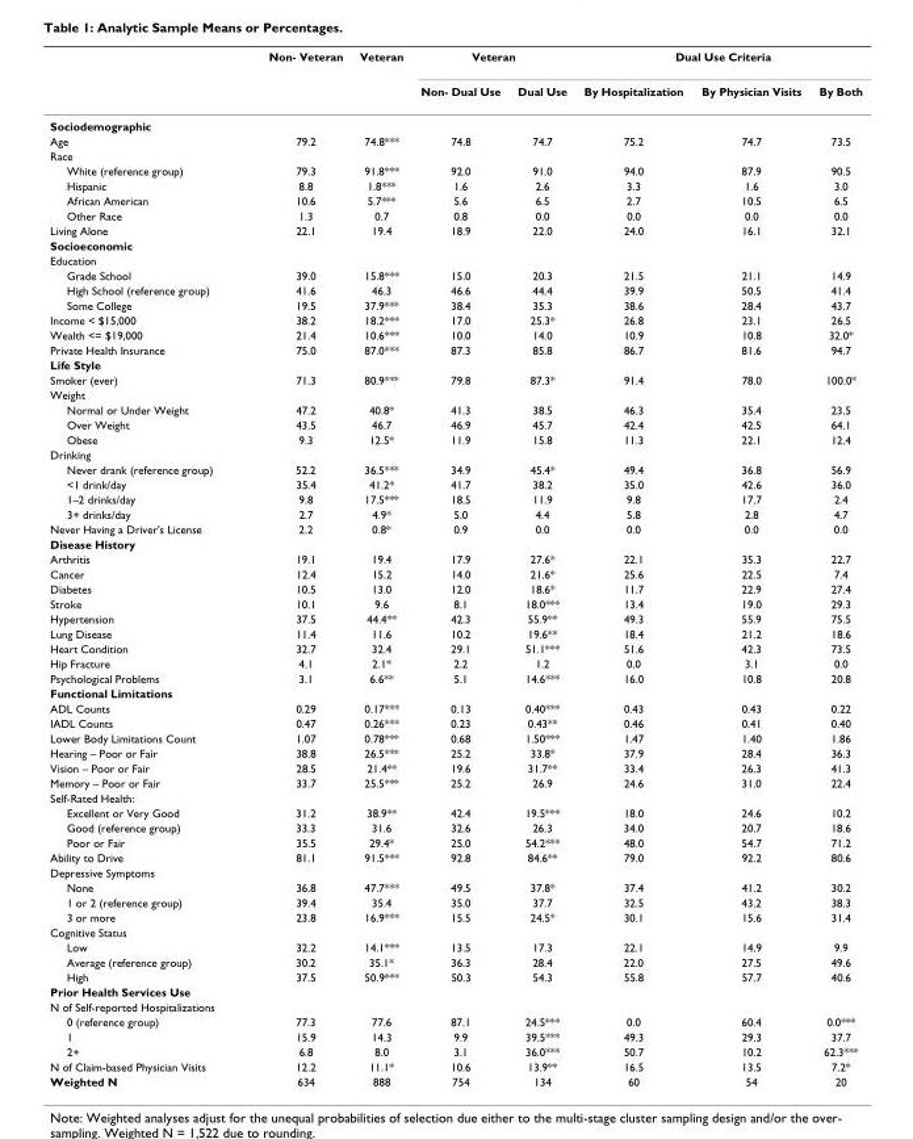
<table><thead><tr><td rowspan="2"></td><td rowspan="2">Non- Veteran</td><td rowspan="2">Veteran</td><td colspan="2">Veteran</td><td colspan="3">Dual Use Criteria</td></tr><tr><td>Non- Dual Use</td><td>Dual Use</td><td>By Hospitalization</td><td>By Physician Visits</td><td>By Both</td></tr></thead><tbody><tr><td colspan="8">Sociodemographic</td></tr><tr><td>Age</td><td>79.2</td><td>74.8***</td><td>74.8</td><td>74.7</td><td>75.2</td><td>74.7</td><td>73.5</td></tr><tr><td colspan="8">Race</td></tr><tr><td>White (reference group)</td><td>79.3</td><td>91.8***</td><td>92.0</td><td>91.0</td><td>94.0</td><td>87.9</td><td>90.5</td></tr><tr><td>Hispanic</td><td>8.8</td><td>1.8***</td><td>1.6</td><td>2.6</td><td>3.3</td><td>1.6</td><td>3.0</td></tr><tr><td>African American</td><td>10.6</td><td>5.7***</td><td>5.6</td><td>6.5</td><td>2.7</td><td>10.5</td><td>6.5</td></tr><tr><td>Other Race</td><td>1.3</td><td>0.7</td><td>0.8</td><td>0.0</td><td>0.0</td><td>0.0</td><td>0.0</td></tr><tr><td>Living Alone</td><td>22.1</td><td>19.4</td><td>18.9</td><td>22.0</td><td>24.0</td><td>16.1</td><td>32.1</td></tr><tr><td colspan="8">Socioeconomic</td></tr><tr><td colspan="8">Education</td></tr><tr><td>Grade School</td><td>39.0</td><td>15.8***</td><td>15.0</td><td>20.3</td><td>21.5</td><td>21.1</td><td>14.9</td></tr><tr><td>High School (reference group)</td><td>41.6</td><td>46.3</td><td>46.6</td><td>44.4</td><td>39.9</td><td>50.5</td><td>41.4</td></tr><tr><td>Some College</td><td>19.5</td><td>37.9***</td><td>38.4</td><td>35.3</td><td>38.6</td><td>28.4</td><td>43.7</td></tr><tr><td>Income &lt; $15,000</td><td>38.2</td><td>18.2***</td><td>17.0</td><td>25.3*</td><td>26.8</td><td>23.1</td><td>26.5</td></tr><tr><td>Wealth &lt;= $19,000</td><td>21.4</td><td>10.6***</td><td>10.0</td><td>14.0</td><td>10.9</td><td>10.8</td><td>32.0*</td></tr><tr><td>Private Health Insurance</td><td>75.0</td><td>87.0***</td><td>87.3</td><td>85.8</td><td>86.7</td><td>81.6</td><td>94.7</td></tr><tr><td colspan="8">Life Style</td></tr><tr><td>Smoker (ever)</td><td>71.3</td><td>80.9***</td><td>79.8</td><td>87.3*</td><td>91.4</td><td>78.0</td><td>100.0*</td></tr><tr><td colspan="8">Weight</td></tr><tr><td>Normal or Under Weight</td><td>47.2</td><td>40.8*</td><td>41.3</td><td>38.5</td><td>46.3</td><td>35.4</td><td>23.5</td></tr><tr><td>Over Weight</td><td>43.5</td><td>46.7</td><td>46.9</td><td>45.7</td><td>42.4</td><td>42.5</td><td>64.1</td></tr><tr><td>Obese</td><td>9.3</td><td>12.5*</td><td>11.9</td><td>15.8</td><td>11.3</td><td>22.1</td><td>12.4</td></tr><tr><td colspan="8">Drinking</td></tr><tr><td>Never drank (reference group)</td><td>52.2</td><td>36.5***</td><td>34.9</td><td>45.4*</td><td>49.4</td><td>36.8</td><td>56.9</td></tr><tr><td>&lt;1 drink/day</td><td>35.4</td><td>41.2*</td><td>41.7</td><td>38.2</td><td>35.0</td><td>42.6</td><td>36.0</td></tr><tr><td>1–2 drinks/day</td><td>9.8</td><td>17.5***</td><td>18.5</td><td>11.9</td><td>9.8</td><td>17.7</td><td>2.4</td></tr><tr><td>3+ drinks/day</td><td>2.7</td><td>4.9*</td><td>5.0</td><td>4.4</td><td>5.8</td><td>2.8</td><td>4.7</td></tr><tr><td>Never Having a Driver&#x27;s License</td><td>2.2</td><td>0.8*</td><td>0.9</td><td>0.0</td><td>0.0</td><td>0.0</td><td>0.0</td></tr><tr><td colspan="8">Disease History</td></tr><tr><td>Arthritis</td><td>19.1</td><td>19.4</td><td>17.9</td><td>27.6*</td><td>22.1</td><td>35.3</td><td>22.7</td></tr><tr><td>Cancer</td><td>12.4</td><td>15.2</td><td>14.0</td><td>21.6*</td><td>25.6</td><td>22.5</td><td>7.4</td></tr><tr><td>Diabetes</td><td>10.5</td><td>13.0</td><td>12.0</td><td>18.6*</td><td>11.7</td><td>22.9</td><td>27.4</td></tr><tr><td>Stroke</td><td>10.1</td><td>9.6</td><td>8.1</td><td>18.0***</td><td>13.4</td><td>19.0</td><td>29.3</td></tr><tr><td>Hypertension</td><td>37.5</td><td>44.4**</td><td>42.3</td><td>55.9**</td><td>49.3</td><td>55.9</td><td>75.5</td></tr><tr><td>Lung Disease</td><td>11.4</td><td>11.6</td><td>10.2</td><td>19.6**</td><td>18.4</td><td>21.2</td><td>18.6</td></tr><tr><td>Heart Condition</td><td>32.7</td><td>32.4</td><td>29.1</td><td>51.1***</td><td>51.6</td><td>42.3</td><td>73.5</td></tr><tr><td>Hip Fracture</td><td>4.1</td><td>2.1*</td><td>2.2</td><td>1.2</td><td>0.0</td><td>3.1</td><td>0.0</td></tr><tr><td>Psychological Problems</td><td>3.1</td><td>6.6**</td><td>5.1</td><td>14.6***</td><td>16.0</td><td>10.8</td><td>20.8</td></tr><tr><td colspan="8">Functional Limitations</td></tr><tr><td>ADL Counts</td><td>0.29</td><td>0.17***</td><td>0.13</td><td>0.40***</td><td>0.43</td><td>0.43</td><td>0.22</td></tr><tr><td>IADL Counts</td><td>0.47</td><td>0.26***</td><td>0.23</td><td>0.43**</td><td>0.46</td><td>0.41</td><td>0.40</td></tr><tr><td>Lower Body Limitations Count</td><td>1.07</td><td>0.78***</td><td>0.68</td><td>1.50***</td><td>1.47</td><td>1.40</td><td>1.86</td></tr><tr><td>Hearing – Poor or Fair</td><td>38.8</td><td>26.5***</td><td>25.2</td><td>33.8*</td><td>37.9</td><td>28.4</td><td>36.3</td></tr><tr><td>Vision – Poor or Fair</td><td>28.5</td><td>21.4**</td><td>19.6</td><td>31.7**</td><td>33.4</td><td>26.3</td><td>41.3</td></tr><tr><td>Memory – Poor or Fair</td><td>33.7</td><td>25.5***</td><td>25.2</td><td>26.9</td><td>24.6</td><td>31.0</td><td>22.4</td></tr><tr><td colspan="8">Self-Rated Health:</td></tr><tr><td>Excellent or Very Good</td><td>31.2</td><td>38.9**</td><td>42.4</td><td>19.5***</td><td>18.0</td><td>24.6</td><td>10.2</td></tr><tr><td>Good (reference group)</td><td>33.3</td><td>31.6</td><td>32.6</td><td>26.3</td><td>34.0</td><td>20.7</td><td>18.6</td></tr><tr><td>Poor or Fair</td><td>35.5</td><td>29.4*</td><td>25.0</td><td>54.2***</td><td>48.0</td><td>54.7</td><td>71.2</td></tr><tr><td>Ability to Drive</td><td>81.1</td><td>91.5***</td><td>92.8</td><td>84.6**</td><td>79.0</td><td>92.2</td><td>80.6</td></tr><tr><td colspan="8">Depressive Symptoms</td></tr><tr><td>None</td><td>36.8</td><td>47.7***</td><td>49.5</td><td>37.8*</td><td>37.4</td><td>41.2</td><td>30.2</td></tr><tr><td>1 or 2 (reference group)</td><td>39.4</td><td>35.4</td><td>35.0</td><td>37.7</td><td>32.5</td><td>43.2</td><td>38.3</td></tr><tr><td>3 or more</td><td>23.8</td><td>16.9***</td><td>15.5</td><td>24.5*</td><td>30.1</td><td>15.6</td><td>31.4</td></tr><tr><td colspan="8">Cognitive Status</td></tr><tr><td>Low</td><td>32.2</td><td>14.1***</td><td>13.5</td><td>17.3</td><td>22.1</td><td>14.9</td><td>9.9</td></tr><tr><td>Average (reference group)</td><td>30.2</td><td>35.1*</td><td>36.3</td><td>28.4</td><td>22.0</td><td>27.5</td><td>49.6</td></tr><tr><td>High</td><td>37.5</td><td>50.9***</td><td>50.3</td><td>54.3</td><td>55.8</td><td>57.7</td><td>40.6</td></tr><tr><td colspan="8">Prior Health Services Use</td></tr><tr><td colspan="8">N of Self-reported Hospitalizations</td></tr><tr><td>0 (reference group)</td><td>77.3</td><td>77.6</td><td>87.1</td><td>24.5***</td><td>0.0</td><td>60.4</td><td>0.0***</td></tr><tr><td>1</td><td>15.9</td><td>14.3</td><td>9.9</td><td>39.5***</td><td>49.3</td><td>29.3</td><td>37.7</td></tr><tr><td>2+</td><td>6.8</td><td>8.0</td><td>3.1</td><td>36.0***</td><td>50.7</td><td>10.2</td><td>62.3***</td></tr><tr><td>N of Claim-based Physician Visits</td><td>12.2</td><td>11.1*</td><td>10.6</td><td>13.9**</td><td>16.5</td><td>13.5</td><td>7.2*</td></tr><tr><td>Weighted N</td><td>634</td><td>888</td><td>754</td><td>134</td><td>60</td><td>54</td><td>20</td></tr></tbody></table>